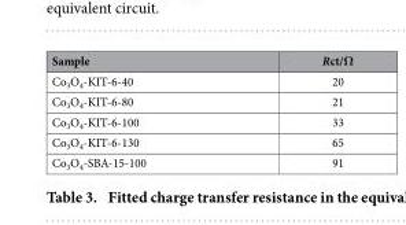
<table><thead><tr><td>Sample</td><td>Rct/Ω</td></tr></thead><tbody><tr><td>Co<sub>3</sub>O<sub>4</sub>-KIT-6-40</td><td>20</td></tr><tr><td>Co<sub>3</sub>O<sub>4</sub>-KIT-6-80</td><td>21</td></tr><tr><td>Co<sub>3</sub>O<sub>4</sub>-KIT-6-100</td><td>33</td></tr><tr><td>Co<sub>3</sub>O<sub>4</sub>-KIT-6-130</td><td>65</td></tr><tr><td>Co<sub>3</sub>O<sub>4</sub>-SBA-15-100</td><td>91</td></tr></tbody></table>